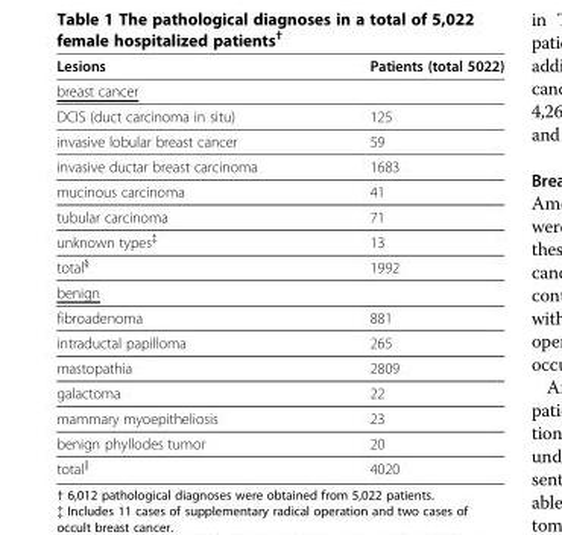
<table><thead><tr><td>Lesions</td><td>Patients (total 5022)</td></tr></thead><tbody><tr><td colspan="2">breast cancer</td></tr><tr><td>DCIS (duct carcinoma in situ)</td><td>125</td></tr><tr><td>invasive lobular breast cancer</td><td>59</td></tr><tr><td>invasive ductar breast carcinoma</td><td>1683</td></tr><tr><td>mucinous carcinoma</td><td>41</td></tr><tr><td>tubular carcinoma</td><td>71</td></tr><tr><td>unknown types<sup>‡</sup></td><td>13</td></tr><tr><td>total<sup>§</sup></td><td>1992</td></tr><tr><td colspan="2">benign</td></tr><tr><td>fibroadenoma</td><td>881</td></tr><tr><td>intraductal papilloma</td><td>265</td></tr><tr><td>mastopathia</td><td>2809</td></tr><tr><td>galactoma</td><td>22</td></tr><tr><td>mammary myoepitheliosis</td><td>23</td></tr><tr><td>benign phyllodes tumor</td><td>20</td></tr><tr><td>total<sup>||</sup></td><td>4020</td></tr></tbody></table>